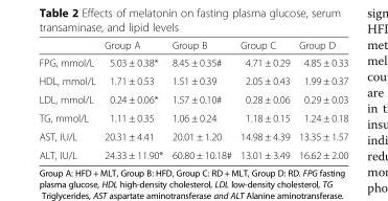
<table><thead><tr><td></td><td>Group A</td><td>Group B</td><td>Group C</td><td>Group D</td></tr></thead><tbody><tr><td>FPG, mmol/L</td><td>5.03 ± 0.38*</td><td>8.45 ± 0.35#</td><td>4.71 ± 0.29</td><td>4.85 ± 0.33</td></tr><tr><td>HDL, mmol/L</td><td>1.71 ± 0.53</td><td>1.51 ± 0.39</td><td>2.05 ± 0.43</td><td>1.99 ± 0.37</td></tr><tr><td>LDL, mmol/L</td><td>0.24 ± 0.06*</td><td>1.57 ± 0.10#</td><td>0.28 ± 0.06</td><td>0.29 ± 0.03</td></tr><tr><td>TG, mmol/L</td><td>1.11 ± 0.35</td><td>1.06 ± 0.24</td><td>1.18 ± 0.15</td><td>1.24 ± 0.18</td></tr><tr><td>AST, IU/L</td><td>20.31 ± 4.41</td><td>20.01 ± 1.20</td><td>14.98 ± 4.39</td><td>13.35 ± 1.57</td></tr><tr><td>ALT, IU/L</td><td>24.33 ± 11.90*</td><td>60.80 ± 10.18#</td><td>13.01 ± 3.49</td><td>16.62 ± 2.00</td></tr></tbody></table>